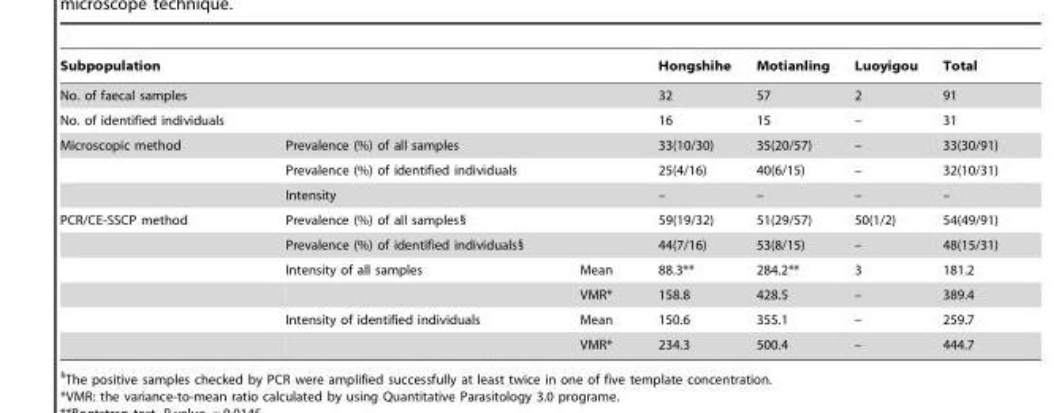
<table><thead><tr><td colspan="3">Subpopulation</td><td>Hongshihe</td><td>Motianling</td><td>Luoyigou</td><td>Total</td></tr></thead><tbody><tr><td colspan="3">No. of faecal samples</td><td>32</td><td>57</td><td>2</td><td>91</td></tr><tr><td colspan="3">No. of identified individuals</td><td>16</td><td>15</td><td>–</td><td>31</td></tr><tr><td rowspan="3">Microscopic method</td><td colspan="2">Prevalence (%) of all samples</td><td>33(10/30)</td><td>35(20/57)</td><td>–</td><td>33(30/91)</td></tr><tr><td colspan="2">Prevalence (%) of identified individuals</td><td>25(4/16)</td><td>40(6/15)</td><td>–</td><td>32(10/31)</td></tr><tr><td colspan="2">Intensity</td><td>–</td><td>–</td><td>–</td><td>–</td></tr><tr><td rowspan="6">PCR/CE-SSCP method</td><td colspan="2">Prevalence (%) of all samples§</td><td>59(19/32)</td><td>51(29/57)</td><td>50(1/2)</td><td>54(49/91)</td></tr><tr><td colspan="2">Prevalence (%) of identified individuals§</td><td>44(7/16)</td><td>53(8/15)</td><td>–</td><td>48(15/31)</td></tr><tr><td>Intensity of all samples</td><td>Mean</td><td>88.3**</td><td>284.2**</td><td>3</td><td>181.2</td></tr><tr><td></td><td>VMR*</td><td>158.8</td><td>428.5</td><td>–</td><td>389.4</td></tr><tr><td>Intensity of identified individuals</td><td>Mean</td><td>150.6</td><td>355.1</td><td>–</td><td>259.7</td></tr><tr><td></td><td>VMR*</td><td>234.3</td><td>500.4</td><td>–</td><td>444.7</td></tr></tbody></table>